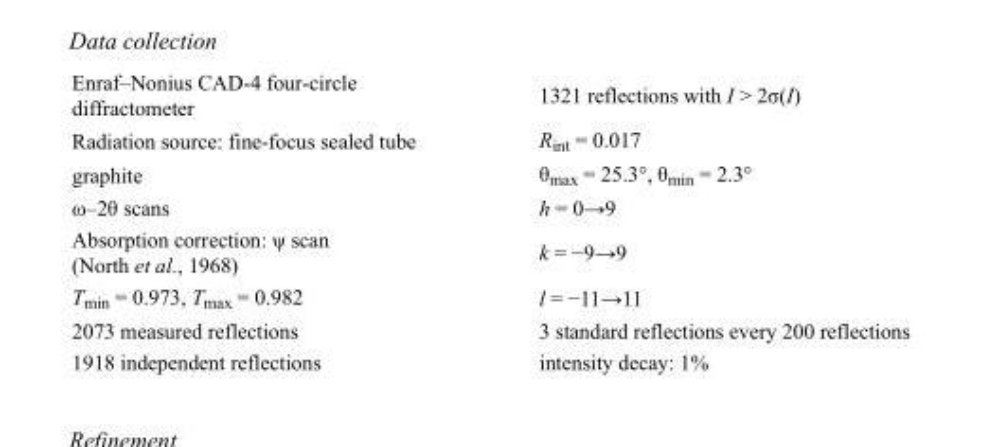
<table><tbody><tr><td>Enraf–Nonius CAD-4 four-circle diffractometer</td><td>1321 reflections with I &gt; 2σ(I)</td></tr><tr><td>Radiation source: fine-focus sealed tube</td><td>R<sub>int</sub> = 0.017</td></tr><tr><td>graphite</td><td>θ<sub>max</sub> = 25.3°, θ<sub>min</sub> = 2.3°</td></tr><tr><td>ω–2θ scans</td><td>h = 0→9</td></tr><tr><td>Absorption correction: ψ scan (North et al., 1968)</td><td>k = −9→9</td></tr><tr><td>T<sub>min</sub> = 0.973, T<sub>max</sub> = 0.982</td><td>l = −11→11</td></tr><tr><td>2073 measured reflections</td><td>3 standard reflections every 200 reflections</td></tr><tr><td>1918 independent reflections</td><td>intensity decay: 1%</td></tr></tbody></table>